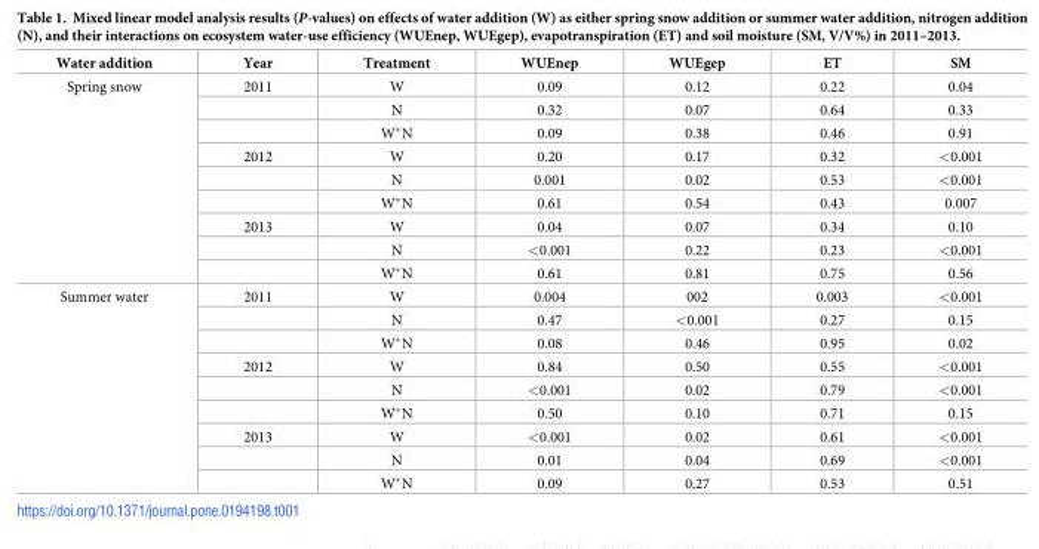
<table><thead><tr><td>Water addition</td><td>Year</td><td>Treatment</td><td>WUEnep</td><td>WUEgep</td><td>ET</td><td>SM</td></tr></thead><tbody><tr><td rowspan="9">Spring snow</td><td>2011</td><td>W</td><td>0.09</td><td>0.12</td><td>0.22</td><td>0.04</td></tr><tr><td></td><td>N</td><td>0.32</td><td>0.07</td><td>0.64</td><td>0.33</td></tr><tr><td></td><td>W*N</td><td>0.09</td><td>0.38</td><td>0.46</td><td>0.91</td></tr><tr><td>2012</td><td>W</td><td>0.20</td><td>0.17</td><td>0.32</td><td>&lt;0.001</td></tr><tr><td></td><td>N</td><td>0.001</td><td>0.02</td><td>0.53</td><td>&lt;0.001</td></tr><tr><td></td><td>W*N</td><td>0.61</td><td>0.54</td><td>0.43</td><td>0.007</td></tr><tr><td>2013</td><td>W</td><td>0.04</td><td>0.07</td><td>0.34</td><td>0.10</td></tr><tr><td></td><td>N</td><td>&lt;0.001</td><td>0.22</td><td>0.23</td><td>&lt;0.001</td></tr><tr><td></td><td>W*N</td><td>0.61</td><td>0.81</td><td>0.75</td><td>0.56</td></tr><tr><td rowspan="9">Summer water</td><td>2011</td><td>W</td><td>0.004</td><td>002</td><td>0.003</td><td>&lt;0.001</td></tr><tr><td></td><td>N</td><td>0.47</td><td>&lt;0.001</td><td>0.27</td><td>0.15</td></tr><tr><td></td><td>W*N</td><td>0.08</td><td>0.46</td><td>0.95</td><td>0.02</td></tr><tr><td>2012</td><td>W</td><td>0.84</td><td>0.50</td><td>0.55</td><td>&lt;0.001</td></tr><tr><td></td><td>N</td><td>&lt;0.001</td><td>0.02</td><td>0.79</td><td>&lt;0.001</td></tr><tr><td></td><td>W*N</td><td>0.50</td><td>0.10</td><td>0.71</td><td>0.15</td></tr><tr><td>2013</td><td>W</td><td>&lt;0.001</td><td>0.02</td><td>0.61</td><td>&lt;0.001</td></tr><tr><td></td><td>N</td><td>0.01</td><td>0.04</td><td>0.69</td><td>&lt;0.001</td></tr><tr><td></td><td>W*N</td><td>0.09</td><td>0.27</td><td>0.53</td><td>0.51</td></tr></tbody></table>